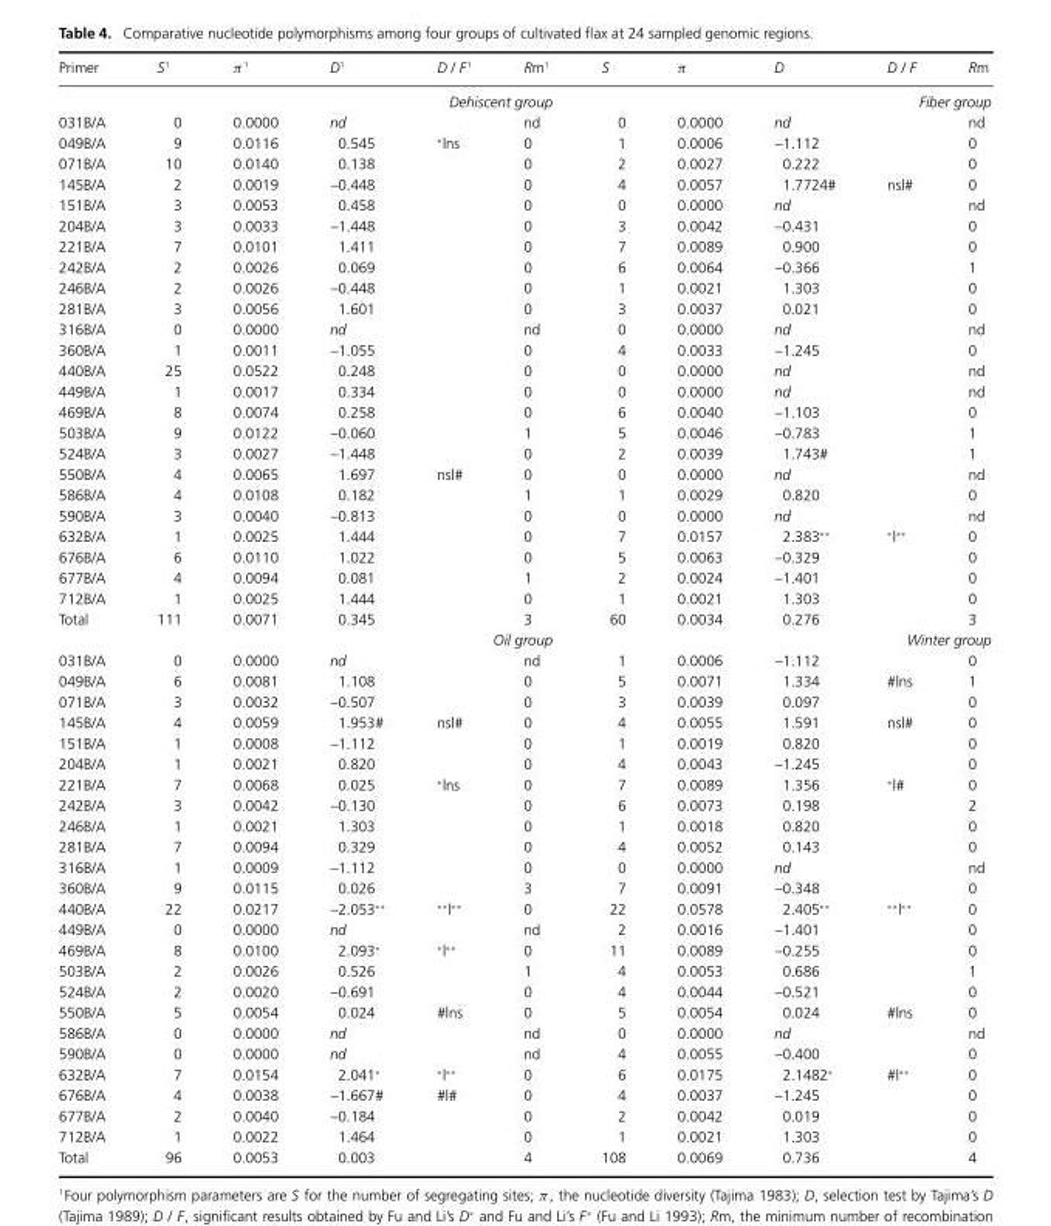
<table><thead><tr><td>Primer</td><td>S<sup>1</sup></td><td>π <sup>1</sup></td><td>D<sup>1</sup></td><td>D / F<sup>1</sup></td><td>Rm<sup>1</sup></td><td>S</td><td>π</td><td>D</td><td>D / F</td><td>Rm</td></tr></thead><tbody><tr><td colspan="4"></td><td colspan="5">Dehiscent group</td><td colspan="2">Fiber group</td></tr><tr><td>031B/A</td><td>0</td><td>0.0000</td><td>nd</td><td></td><td>nd</td><td>0</td><td>0.0000</td><td>nd</td><td></td><td>nd</td></tr><tr><td>049B/A</td><td>9</td><td>0.0116</td><td>0.545</td><td>∗|ns</td><td>0</td><td>1</td><td>0.0006</td><td>–1.112</td><td></td><td>0</td></tr><tr><td>071B/A</td><td>10</td><td>0.0140</td><td>0.138</td><td></td><td>0</td><td>2</td><td>0.0027</td><td>0.222</td><td></td><td>0</td></tr><tr><td>145B/A</td><td>2</td><td>0.0019</td><td>–0.448</td><td></td><td>0</td><td>4</td><td>0.0057</td><td>1.7724#</td><td>ns|#</td><td>0</td></tr><tr><td>151B/A</td><td>3</td><td>0.0053</td><td>0.458</td><td></td><td>0</td><td>0</td><td>0.0000</td><td>nd</td><td></td><td>nd</td></tr><tr><td>204B/A</td><td>3</td><td>0.0033</td><td>–1.448</td><td></td><td>0</td><td>3</td><td>0.0042</td><td>–0.431</td><td></td><td>0</td></tr><tr><td>221B/A</td><td>7</td><td>0.0101</td><td>1.411</td><td></td><td>0</td><td>7</td><td>0.0089</td><td>0.900</td><td></td><td>0</td></tr><tr><td>242B/A</td><td>2</td><td>0.0026</td><td>0.069</td><td></td><td>0</td><td>6</td><td>0.0064</td><td>–0.366</td><td></td><td>1</td></tr><tr><td>246B/A</td><td>2</td><td>0.0026</td><td>–0.448</td><td></td><td>0</td><td>1</td><td>0.0021</td><td>1.303</td><td></td><td>0</td></tr><tr><td>281B/A</td><td>3</td><td>0.0056</td><td>1.601</td><td></td><td>0</td><td>3</td><td>0.0037</td><td>0.021</td><td></td><td>0</td></tr><tr><td>316B/A</td><td>0</td><td>0.0000</td><td>nd</td><td></td><td>nd</td><td>0</td><td>0.0000</td><td>nd</td><td></td><td>nd</td></tr><tr><td>360B/A</td><td>1</td><td>0.0011</td><td>–1.055</td><td></td><td>0</td><td>4</td><td>0.0033</td><td>–1.245</td><td></td><td>0</td></tr><tr><td>440B/A</td><td>25</td><td>0.0522</td><td>0.248</td><td></td><td>0</td><td>0</td><td>0.0000</td><td>nd</td><td></td><td>nd</td></tr><tr><td>449B/A</td><td>1</td><td>0.0017</td><td>0.334</td><td></td><td>0</td><td>0</td><td>0.0000</td><td>nd</td><td></td><td>nd</td></tr><tr><td>469B/A</td><td>8</td><td>0.0074</td><td>0.258</td><td></td><td>0</td><td>6</td><td>0.0040</td><td>–1.103</td><td></td><td>0</td></tr><tr><td>503B/A</td><td>9</td><td>0.0122</td><td>–0.060</td><td></td><td>1</td><td>5</td><td>0.0046</td><td>–0.783</td><td></td><td>1</td></tr><tr><td>524B/A</td><td>3</td><td>0.0027</td><td>–1.448</td><td></td><td>0</td><td>2</td><td>0.0039</td><td>1.743#</td><td></td><td>1</td></tr><tr><td>550B/A</td><td>4</td><td>0.0065</td><td>1.697</td><td>ns|#</td><td>0</td><td>0</td><td>0.0000</td><td>nd</td><td></td><td>nd</td></tr><tr><td>586B/A</td><td>4</td><td>0.0108</td><td>0.182</td><td></td><td>1</td><td>1</td><td>0.0029</td><td>0.820</td><td></td><td>0</td></tr><tr><td>590B/A</td><td>3</td><td>0.0040</td><td>–0.813</td><td></td><td>0</td><td>0</td><td>0.0000</td><td>nd</td><td></td><td>nd</td></tr><tr><td>632B/A</td><td>1</td><td>0.0025</td><td>1.444</td><td></td><td>0</td><td>7</td><td>0.0157</td><td>2.383∗∗</td><td>∗|∗∗</td><td>0</td></tr><tr><td>676B/A</td><td>6</td><td>0.0110</td><td>1.022</td><td></td><td>0</td><td>5</td><td>0.0063</td><td>–0.329</td><td></td><td>0</td></tr><tr><td>677B/A</td><td>4</td><td>0.0094</td><td>0.081</td><td></td><td>1</td><td>2</td><td>0.0024</td><td>–1.401</td><td></td><td>0</td></tr><tr><td>712B/A</td><td>1</td><td>0.0025</td><td>1.444</td><td></td><td>0</td><td>1</td><td>0.0021</td><td>1.303</td><td></td><td>0</td></tr><tr><td>Total</td><td>111</td><td>0.0071</td><td>0.345</td><td></td><td>3</td><td>60</td><td>0.0034</td><td>0.276</td><td></td><td>3</td></tr><tr><td colspan="5"></td><td colspan="4">Oil group</td><td colspan="2">Winter group</td></tr><tr><td>031B/A</td><td>0</td><td>0.0000</td><td>nd</td><td></td><td>nd</td><td>1</td><td>0.0006</td><td>–1.112</td><td></td><td>0</td></tr><tr><td>049B/A</td><td>6</td><td>0.0081</td><td>1.108</td><td></td><td>0</td><td>5</td><td>0.0071</td><td>1.334</td><td>#|ns</td><td>1</td></tr><tr><td>071B/A</td><td>3</td><td>0.0032</td><td>–0.507</td><td></td><td>0</td><td>3</td><td>0.0039</td><td>0.097</td><td></td><td>0</td></tr><tr><td>145B/A</td><td>4</td><td>0.0059</td><td>1.953#</td><td>ns|#</td><td>0</td><td>4</td><td>0.0055</td><td>1.591</td><td>ns|#</td><td>0</td></tr><tr><td>151B/A</td><td>1</td><td>0.0008</td><td>–1.112</td><td></td><td>0</td><td>1</td><td>0.0019</td><td>0.820</td><td></td><td>0</td></tr><tr><td>204B/A</td><td>1</td><td>0.0021</td><td>0.820</td><td></td><td>0</td><td>4</td><td>0.0043</td><td>–1.245</td><td></td><td>0</td></tr><tr><td>221B/A</td><td>7</td><td>0.0068</td><td>0.025</td><td>∗|ns</td><td>0</td><td>7</td><td>0.0089</td><td>1.356</td><td>∗|#</td><td>0</td></tr><tr><td>242B/A</td><td>3</td><td>0.0042</td><td>–0.130</td><td></td><td>0</td><td>6</td><td>0.0073</td><td>0.198</td><td></td><td>2</td></tr><tr><td>246B/A</td><td>1</td><td>0.0021</td><td>1.303</td><td></td><td>0</td><td>1</td><td>0.0018</td><td>0.820</td><td></td><td>0</td></tr><tr><td>281B/A</td><td>7</td><td>0.0094</td><td>0.329</td><td></td><td>0</td><td>4</td><td>0.0052</td><td>0.143</td><td></td><td>0</td></tr><tr><td>316B/A</td><td>1</td><td>0.0009</td><td>–1.112</td><td></td><td>0</td><td>0</td><td>0.0000</td><td>nd</td><td></td><td>nd</td></tr><tr><td>360B/A</td><td>9</td><td>0.0115</td><td>0.026</td><td></td><td>3</td><td>7</td><td>0.0091</td><td>–0.348</td><td></td><td>0</td></tr><tr><td>440B/A</td><td>22</td><td>0.0217</td><td>–2.053∗∗</td><td>∗∗|∗∗</td><td>0</td><td>22</td><td>0.0578</td><td>2.405∗∗</td><td>∗∗|∗∗</td><td>0</td></tr><tr><td>449B/A</td><td>0</td><td>0.0000</td><td>nd</td><td></td><td>nd</td><td>2</td><td>0.0016</td><td>–1.401</td><td></td><td>0</td></tr><tr><td>469B/A</td><td>8</td><td>0.0100</td><td>2.093∗</td><td>∗|∗∗</td><td>0</td><td>11</td><td>0.0089</td><td>–0.255</td><td></td><td>0</td></tr><tr><td>503B/A</td><td>2</td><td>0.0026</td><td>0.526</td><td></td><td>1</td><td>4</td><td>0.0053</td><td>0.686</td><td></td><td>1</td></tr><tr><td>524B/A</td><td>2</td><td>0.0020</td><td>–0.691</td><td></td><td>0</td><td>4</td><td>0.0044</td><td>–0.521</td><td></td><td>0</td></tr><tr><td>550B/A</td><td>5</td><td>0.0054</td><td>0.024</td><td>#|ns</td><td>0</td><td>5</td><td>0.0054</td><td>0.024</td><td>#|ns</td><td>0</td></tr><tr><td>586B/A</td><td>0</td><td>0.0000</td><td>nd</td><td></td><td>nd</td><td>0</td><td>0.0000</td><td>nd</td><td></td><td>nd</td></tr><tr><td>590B/A</td><td>0</td><td>0.0000</td><td>nd</td><td></td><td>nd</td><td>4</td><td>0.0055</td><td>–0.400</td><td></td><td>0</td></tr><tr><td>632B/A</td><td>7</td><td>0.0154</td><td>2.041∗</td><td>∗|∗∗</td><td>0</td><td>6</td><td>0.0175</td><td>2.1482∗</td><td>#|∗∗</td><td>0</td></tr><tr><td>676B/A</td><td>4</td><td>0.0038</td><td>–1.667#</td><td>#|#</td><td>0</td><td>4</td><td>0.0037</td><td>–1.245</td><td></td><td>0</td></tr><tr><td>677B/A</td><td>2</td><td>0.0040</td><td>–0.184</td><td></td><td>0</td><td>2</td><td>0.0042</td><td>0.019</td><td></td><td>0</td></tr><tr><td>712B/A</td><td>1</td><td>0.0022</td><td>1.464</td><td></td><td>0</td><td>1</td><td>0.0021</td><td>1.303</td><td></td><td>0</td></tr><tr><td>Total</td><td>96</td><td>0.0053</td><td>0.003</td><td></td><td>4</td><td>108</td><td>0.0069</td><td>0.736</td><td></td><td>4</td></tr></tbody></table>